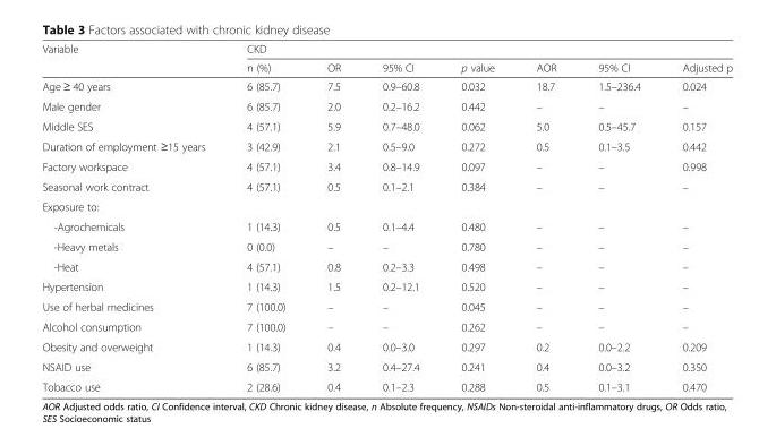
<table><thead><tr><td rowspan="2">Variable</td><td colspan="7">CKD</td></tr><tr><td>n (%)</td><td>OR</td><td>95% CI</td><td>p value</td><td>AOR</td><td>95% CI</td><td>Adjusted p</td></tr></thead><tbody><tr><td>Age ≥ 40 years</td><td>6 (85.7)</td><td>7.5</td><td>0.9–60.8</td><td>0.032</td><td>18.7</td><td>1.5–236.4</td><td>0.024</td></tr><tr><td>Male gender</td><td>6 (85.7)</td><td>2.0</td><td>0.2–16.2</td><td>0.442</td><td>–</td><td>–</td><td>–</td></tr><tr><td>Middle SES</td><td>4 (57.1)</td><td>5.9</td><td>0.7–48.0</td><td>0.062</td><td>5.0</td><td>0.5–45.7</td><td>0.157</td></tr><tr><td>Duration of employment ≥15 years</td><td>3 (42.9)</td><td>2.1</td><td>0.5–9.0</td><td>0.272</td><td>0.5</td><td>0.1–3.5</td><td>0.442</td></tr><tr><td>Factory workspace</td><td>4 (57.1)</td><td>3.4</td><td>0.8–14.9</td><td>0.097</td><td>–</td><td>–</td><td>0.998</td></tr><tr><td>Seasonal work contract</td><td>4 (57.1)</td><td>0.5</td><td>0.1–2.1</td><td>0.384</td><td>–</td><td>–</td><td>–</td></tr><tr><td colspan="8">Exposure to:</td></tr><tr><td>-Agrochemicals</td><td>1 (14.3)</td><td>0.5</td><td>0.1–4.4</td><td>0.480</td><td>–</td><td>–</td><td>–</td></tr><tr><td>-Heavy metals</td><td>0 (0.0)</td><td>–</td><td>–</td><td>0.780</td><td>–</td><td>–</td><td>–</td></tr><tr><td>-Heat</td><td>4 (57.1)</td><td>0.8</td><td>0.2–3.3</td><td>0.498</td><td>–</td><td>–</td><td>–</td></tr><tr><td>Hypertension</td><td>1 (14.3)</td><td>1.5</td><td>0.2–12.1</td><td>0.520</td><td>–</td><td>–</td><td>–</td></tr><tr><td>Use of herbal medicines</td><td>7 (100.0)</td><td>–</td><td>–</td><td>0.045</td><td>–</td><td>–</td><td>–</td></tr><tr><td>Alcohol consumption</td><td>7 (100.0)</td><td>–</td><td>–</td><td>0.262</td><td>–</td><td>–</td><td>–</td></tr><tr><td>Obesity and overweight</td><td>1 (14.3)</td><td>0.4</td><td>0.0–3.0</td><td>0.297</td><td>0.2</td><td>0.0–2.2</td><td>0.209</td></tr><tr><td>NSAID use</td><td>6 (85.7)</td><td>3.2</td><td>0.4–27.4</td><td>0.241</td><td>0.4</td><td>0.0–3.2</td><td>0.350</td></tr><tr><td>Tobacco use</td><td>2 (28.6)</td><td>0.4</td><td>0.1–2.3</td><td>0.288</td><td>0.5</td><td>0.1–3.1</td><td>0.470</td></tr></tbody></table>